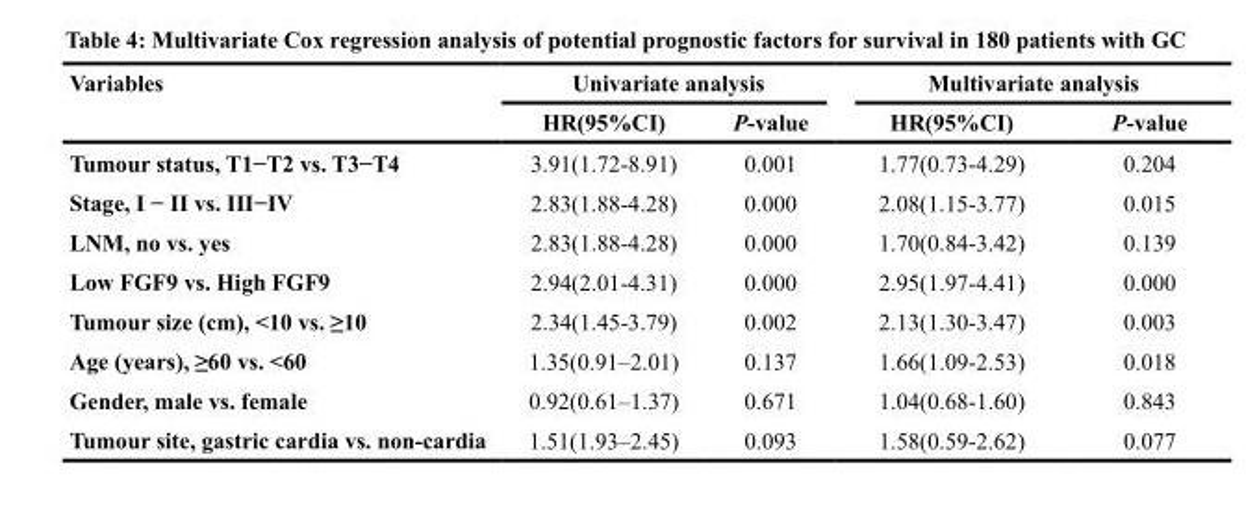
<table><thead><tr><td rowspan="2">Variables</td><td colspan="2">Univariate analysis</td><td colspan="2">Multivariate analysis</td></tr><tr><td>HR(95%CI)</td><td>P-value</td><td>HR(95%CI)</td><td>P-value</td></tr></thead><tbody><tr><td>Tumour status, T1−T2 vs. T3−T4</td><td>3.91(1.72-8.91)</td><td>0.001</td><td>1.77(0.73-4.29)</td><td>0.204</td></tr><tr><td>Stage, I − II vs. III−IV</td><td>2.83(1.88-4.28)</td><td>0.000</td><td>2.08(1.15-3.77)</td><td>0.015</td></tr><tr><td>LNM, no vs. yes</td><td>2.83(1.88-4.28)</td><td>0.000</td><td>1.70(0.84-3.42)</td><td>0.139</td></tr><tr><td>Low FGF9 vs. High FGF9</td><td>2.94(2.01-4.31)</td><td>0.000</td><td>2.95(1.97-4.41)</td><td>0.000</td></tr><tr><td>Tumour size (cm), &lt;10 vs. ≥10</td><td>2.34(1.45-3.79)</td><td>0.002</td><td>2.13(1.30-3.47)</td><td>0.003</td></tr><tr><td>Age (years), ≥60 vs. &lt;60</td><td>1.35(0.91–2.01)</td><td>0.137</td><td>1.66(1.09-2.53)</td><td>0.018</td></tr><tr><td>Gender, male vs. female</td><td>0.92(0.61–1.37)</td><td>0.671</td><td>1.04(0.68-1.60)</td><td>0.843</td></tr><tr><td>Tumour site, gastric cardia vs. non-cardia</td><td>1.51(1.93–2.45)</td><td>0.093</td><td>1.58(0.59-2.62)</td><td>0.077</td></tr></tbody></table>